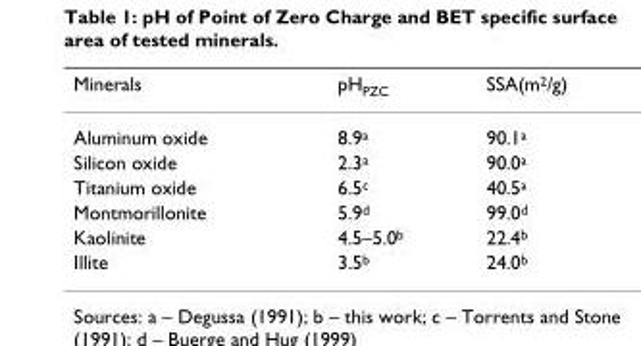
<table><thead><tr><td>Minerals</td><td>pH<sub>PZC</sub></td><td>SSA(m<sup>2</sup>/g)</td></tr></thead><tbody><tr><td>Aluminum oxide</td><td>8.9<sup>a</sup></td><td>90.1<sup>a</sup></td></tr><tr><td>Silicon oxide</td><td>2.3<sup>a</sup></td><td>90.0<sup>a</sup></td></tr><tr><td>Titanium oxide</td><td>6.5<sup>c</sup></td><td>40.5<sup>a</sup></td></tr><tr><td>Montmorillonite</td><td>5.9<sup>d</sup></td><td>99.0<sup>d</sup></td></tr><tr><td>Kaolinite</td><td>4.5–5.0<sup>b</sup></td><td>22.4<sup>b</sup></td></tr><tr><td>Illite</td><td>3.5<sup>b</sup></td><td>24.0<sup>b</sup></td></tr></tbody></table>